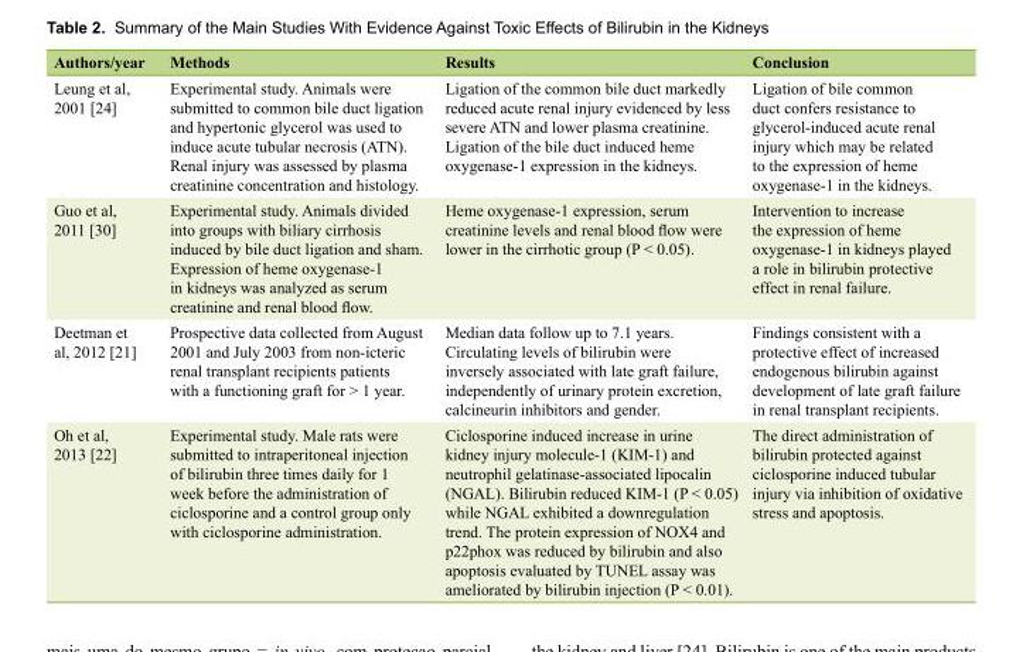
<table><thead><tr><td>Authors/year</td><td>Methods</td><td>Results</td><td>Conclusion</td></tr></thead><tbody><tr><td>Leung et al, 2001 [24]</td><td>Experimental study. Animals were submitted to common bile duct ligation and hypertonic glycerol was used to induce acute tubular necrosis (ATN). Renal injury was assessed by plasma creatinine concentration and histology.</td><td>Ligation of the common bile duct markedly reduced acute renal injury evidenced by less severe ATN and lower plasma creatinine. Ligation of the bile duct induced heme oxygenase-1 expression in the kidneys.</td><td>Ligation of bile common duct confers resistance to glycerol-induced acute renal injury which may be related to the expression of heme oxygenase-1 in the kidneys.</td></tr><tr><td>Guo et al, 2011 [30]</td><td>Experimental study. Animals divided into groups with biliary cirrhosis induced by bile duct ligation and sham. Expression of heme oxygenase-1 in kidneys was analyzed as serum creatinine and renal blood flow.</td><td>Heme oxygenase-1 expression, serum creatinine levels and renal blood flow were lower in the cirrhotic group (P &lt; 0.05).</td><td>Intervention to increase the expression of heme oxygenase-1 in kidneys played a role in bilirubin protective effect in renal failure.</td></tr><tr><td>Deetman et al, 2012 [21]</td><td>Prospective data collected from August 2001 and July 2003 from non-icteric renal transplant recipients patients with a functioning graft for &gt; 1 year.</td><td>Median data follow up to 7.1 years. Circulating levels of bilirubin were inversely associated with late graft failure, independently of urinary protein excretion, calcineurin inhibitors and gender.</td><td>Findings consistent with a protective effect of increased endogenous bilirubin against development of late graft failure in renal transplant recipients.</td></tr><tr><td>Oh et al, 2013 [22]</td><td>Experimental study. Male rats were submitted to intraperitoneal injection of bilirubin three times daily for 1 week before the administration of ciclosporine and a control group only with ciclosporine administration.</td><td>Ciclosporine induced increase in urine kidney injury molecule-1 (KIM-1) and neutrophil gelatinase-associated lipocalin (NGAL). Bilirubin reduced KIM-1 (P &lt; 0.05) while NGAL exhibited a downregulation trend. The protein expression of NOX4 and p22phox was reduced by bilirubin and also apoptosis evaluated by TUNEL assay was ameliorated by bilirubin injection (P &lt; 0.01).</td><td>The direct administration of bilirubin protected against ciclosporine induced tubular injury via inhibition of oxidative stress and apoptosis.</td></tr></tbody></table>